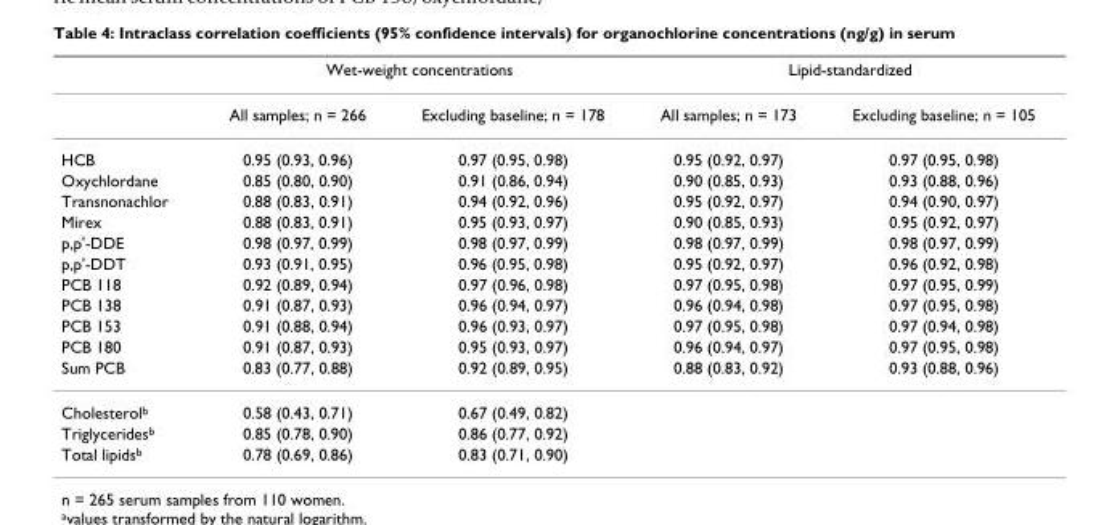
<table><thead><tr><td rowspan="2"></td><td colspan="2">Wet-weight concentrations</td><td colspan="2">Lipid-standardized</td></tr><tr><td>All samples; n = 266</td><td>Excluding baseline; n = 178</td><td>All samples; n = 173</td><td>Excluding baseline; n = 105</td></tr></thead><tbody><tr><td>HCB</td><td>0.95 (0.93, 0.96)</td><td>0.97 (0.95, 0.98)</td><td>0.95 (0.92, 0.97)</td><td>0.97 (0.95, 0.98)</td></tr><tr><td>Oxychlordane</td><td>0.85 (0.80, 0.90)</td><td>0.91 (0.86, 0.94)</td><td>0.90 (0.85, 0.93)</td><td>0.93 (0.88, 0.96)</td></tr><tr><td>Transnonachlor</td><td>0.88 (0.83, 0.91)</td><td>0.94 (0.92, 0.96)</td><td>0.95 (0.92, 0.97)</td><td>0.94 (0.90, 0.97)</td></tr><tr><td>Mirex</td><td>0.88 (0.83, 0.91)</td><td>0.95 (0.93, 0.97)</td><td>0.90 (0.85, 0.93)</td><td>0.95 (0.92, 0.97)</td></tr><tr><td>p,p&#x27;-DDE</td><td>0.98 (0.97, 0.99)</td><td>0.98 (0.97, 0.99)</td><td>0.98 (0.97, 0.99)</td><td>0.98 (0.97, 0.99)</td></tr><tr><td>p,p&#x27;-DDT</td><td>0.93 (0.91, 0.95)</td><td>0.96 (0.95, 0.98)</td><td>0.95 (0.92, 0.97)</td><td>0.96 (0.92, 0.98)</td></tr><tr><td>PCB 118</td><td>0.92 (0.89, 0.94)</td><td>0.97 (0.96, 0.98)</td><td>0.97 (0.95, 0.98)</td><td>0.97 (0.95, 0.99)</td></tr><tr><td>PCB 138</td><td>0.91 (0.87, 0.93)</td><td>0.96 (0.94, 0.97)</td><td>0.96 (0.94, 0.98)</td><td>0.97 (0.95, 0.98)</td></tr><tr><td>PCB 153</td><td>0.91 (0.88, 0.94)</td><td>0.96 (0.93, 0.97)</td><td>0.97 (0.95, 0.98)</td><td>0.97 (0.94, 0.98)</td></tr><tr><td>PCB 180</td><td>0.91 (0.87, 0.93)</td><td>0.95 (0.93, 0.97)</td><td>0.96 (0.94, 0.97)</td><td>0.97 (0.95, 0.98)</td></tr><tr><td>Sum PCB</td><td>0.83 (0.77, 0.88)</td><td>0.92 (0.89, 0.95)</td><td>0.88 (0.83, 0.92)</td><td>0.93 (0.88, 0.96)</td></tr><tr><td>Cholesterol<sup>b</sup></td><td>0.58 (0.43, 0.71)</td><td>0.67 (0.49, 0.82)</td><td></td><td></td></tr><tr><td>Triglycerides<sup>b</sup></td><td>0.85 (0.78, 0.90)</td><td>0.86 (0.77, 0.92)</td><td></td><td></td></tr><tr><td>Total lipids<sup>b</sup></td><td>0.78 (0.69, 0.86)</td><td>0.83 (0.71, 0.90)</td><td></td><td></td></tr></tbody></table>